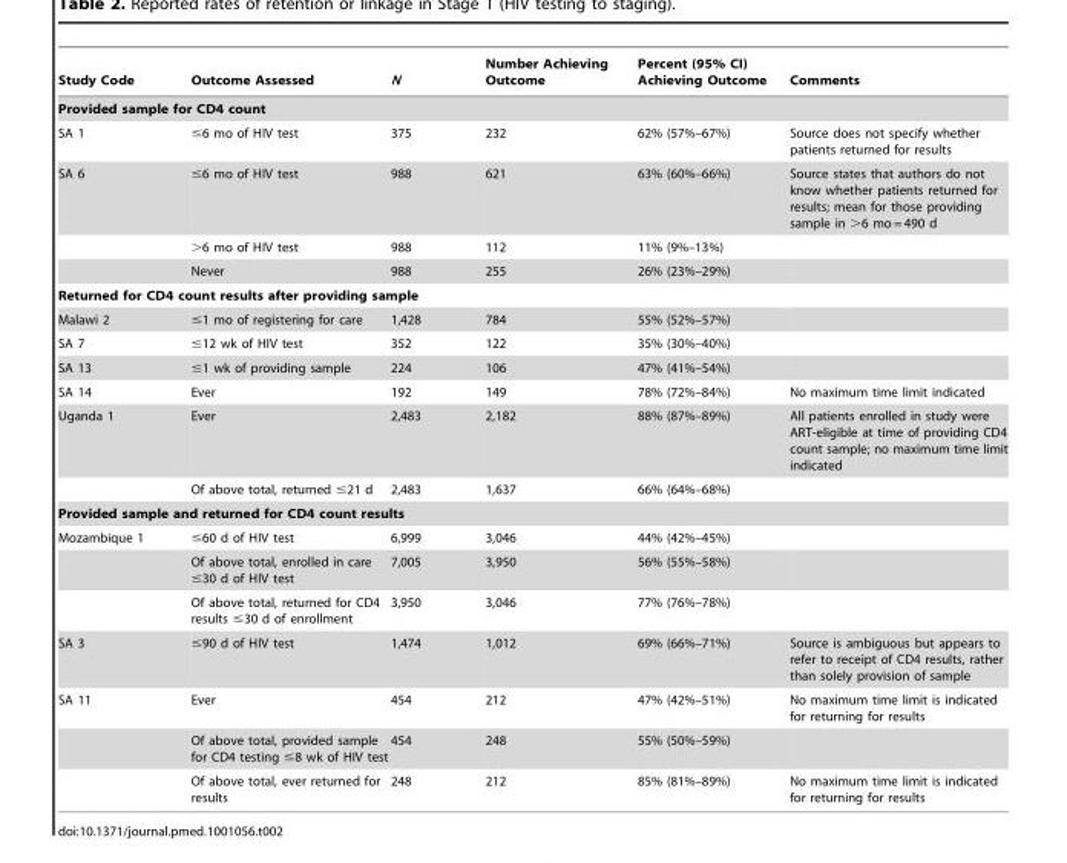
<table><thead><tr><td>Study Code</td><td>Outcome Assessed</td><td>N</td><td>Number Achieving Outcome</td><td>Percent (95% CI) Achieving Outcome</td><td>Comments</td></tr></thead><tbody><tr><td colspan="6">Provided sample for CD4 count</td></tr><tr><td>SA 1</td><td>≤6 mo of HIV test</td><td>375</td><td>232</td><td>62% (57%–67%)</td><td>Source does not specify whether patients returned for results</td></tr><tr><td rowspan="3">SA 6</td><td>≤6 mo of HIV test</td><td>988</td><td>621</td><td>63% (60%–66%)</td><td>Source states that authors do not know whether patients returned for results; mean for those providing sample in &gt;6 mo = 490 d</td></tr><tr><td>&gt;6 mo of HIV test</td><td>988</td><td>112</td><td>11% (9%–13%)</td><td></td></tr><tr><td>Never</td><td>988</td><td>255</td><td>26% (23%–29%)</td><td></td></tr><tr><td colspan="6">Returned for CD4 count results after providing sample</td></tr><tr><td>Malawi 2</td><td>≤1 mo of registering for care</td><td>1,428</td><td>784</td><td>55% (52%–57%)</td><td></td></tr><tr><td>SA 7</td><td>≤12 wk of HIV test</td><td>352</td><td>122</td><td>35% (30%–40%)</td><td></td></tr><tr><td>SA 13</td><td>≤1 wk of providing sample</td><td>224</td><td>106</td><td>47% (41%–54%)</td><td></td></tr><tr><td>SA 14</td><td>Ever</td><td>192</td><td>149</td><td>78% (72%–84%)</td><td>No maximum time limit indicated</td></tr><tr><td rowspan="2">Uganda 1</td><td>Ever</td><td>2,483</td><td>2,182</td><td>88% (87%–89%)</td><td>All patients enrolled in study were ART-eligible at time of providing CD4 count sample; no maximum time limit indicated</td></tr><tr><td>Of above total, returned ≤21 d</td><td>2,483</td><td>1,637</td><td>66% (64%–68%)</td><td></td></tr><tr><td colspan="6">Provided sample and returned for CD4 count results</td></tr><tr><td rowspan="3">Mozambique 1</td><td>≤60 d of HIV test</td><td>6,999</td><td>3,046</td><td>44% (42%–45%)</td><td></td></tr><tr><td>Of above total, enrolled in care ≤30 d of HIV test</td><td>7,005</td><td>3,950</td><td>56% (55%–58%)</td><td></td></tr><tr><td>Of above total, returned for CD4 results ≤30 d of enrollment</td><td>3,950</td><td>3,046</td><td>77% (76%–78%)</td><td></td></tr><tr><td>SA 3</td><td>≤90 d of HIV test</td><td>1,474</td><td>1,012</td><td>69% (66%–71%)</td><td>Source is ambiguous but appears to refer to receipt of CD4 results, rather than solely provision of sample</td></tr><tr><td rowspan="3">SA 11</td><td>Ever</td><td>454</td><td>212</td><td>47% (42%–51%)</td><td>No maximum time limit is indicated for returning for results</td></tr><tr><td>Of above total, provided sample for CD4 testing ≤8 wk of HIV test</td><td>454</td><td>248</td><td>55% (50%–59%)</td><td></td></tr><tr><td>Of above total, ever returned for results</td><td>248</td><td>212</td><td>85% (81%–89%)</td><td>No maximum time limit is indicated for returning for results</td></tr></tbody></table>